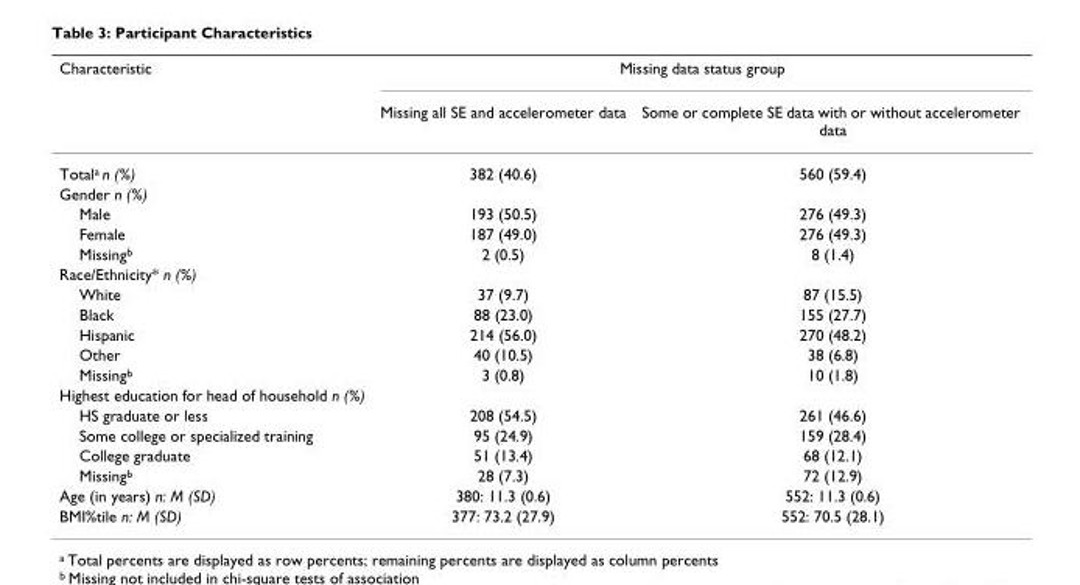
<table><thead><tr><td rowspan="2">Characteristic</td><td colspan="2">Missing data status group</td></tr><tr><td>Missing all SE and accelerometer data</td><td>Some or complete SE data with or without accelerometer data</td></tr></thead><tbody><tr><td>Total<sup>a</sup> n (%)</td><td>382 (40.6)</td><td>560 (59.4)</td></tr><tr><td colspan="3">Gender n (%)</td></tr><tr><td>Male</td><td>193 (50.5)</td><td>276 (49.3)</td></tr><tr><td>Female</td><td>187 (49.0)</td><td>276 (49.3)</td></tr><tr><td>Missing<sup>b</sup></td><td>2 (0.5)</td><td>8 (1.4)</td></tr><tr><td colspan="3">Race/Ethnicity* n (%)</td></tr><tr><td>White</td><td>37 (9.7)</td><td>87 (15.5)</td></tr><tr><td>Black</td><td>88 (23.0)</td><td>155 (27.7)</td></tr><tr><td>Hispanic</td><td>214 (56.0)</td><td>270 (48.2)</td></tr><tr><td>Other</td><td>40 (10.5)</td><td>38 (6.8)</td></tr><tr><td>Missing<sup>b</sup></td><td>3 (0.8)</td><td>10 (1.8)</td></tr><tr><td colspan="3">Highest education for head of household n (%)</td></tr><tr><td>HS graduate or less</td><td>208 (54.5)</td><td>261 (46.6)</td></tr><tr><td>Some college or specialized training</td><td>95 (24.9)</td><td>159 (28.4)</td></tr><tr><td>College graduate</td><td>51 (13.4)</td><td>68 (12.1)</td></tr><tr><td>Missing<sup>b</sup></td><td>28 (7.3)</td><td>72 (12.9)</td></tr><tr><td>Age (in years) n: M (SD)</td><td>380: 11.3 (0.6)</td><td>552: 11.3 (0.6)</td></tr><tr><td>BMI%tile n: M (SD)</td><td>377: 73.2 (27.9)</td><td>552: 70.5 (28.1)</td></tr></tbody></table>